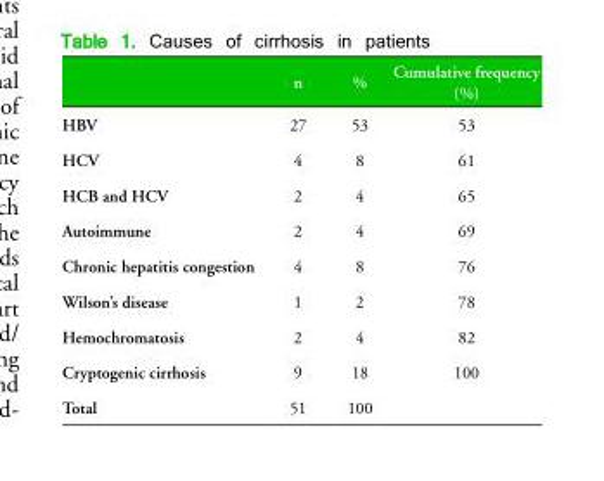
<table><thead><tr><td></td><td>n</td><td>%</td><td>Cumulative frequency (%)</td></tr></thead><tbody><tr><td>HBV</td><td>27</td><td>53</td><td>53</td></tr><tr><td>HCV</td><td>4</td><td>8</td><td>61</td></tr><tr><td>HCB and HCV</td><td>2</td><td>4</td><td>65</td></tr><tr><td>Autoimmune</td><td>2</td><td>4</td><td>69</td></tr><tr><td>Chronic hepatitis congestion</td><td>4</td><td>8</td><td>76</td></tr><tr><td>Wilson’s disease</td><td>1</td><td>2</td><td>78</td></tr><tr><td>Hemochromatosis</td><td>2</td><td>4</td><td>82</td></tr><tr><td>Cryptogenic cirrhosis</td><td>9</td><td>18</td><td>100</td></tr><tr><td>Total</td><td>51</td><td>100</td><td></td></tr></tbody></table>